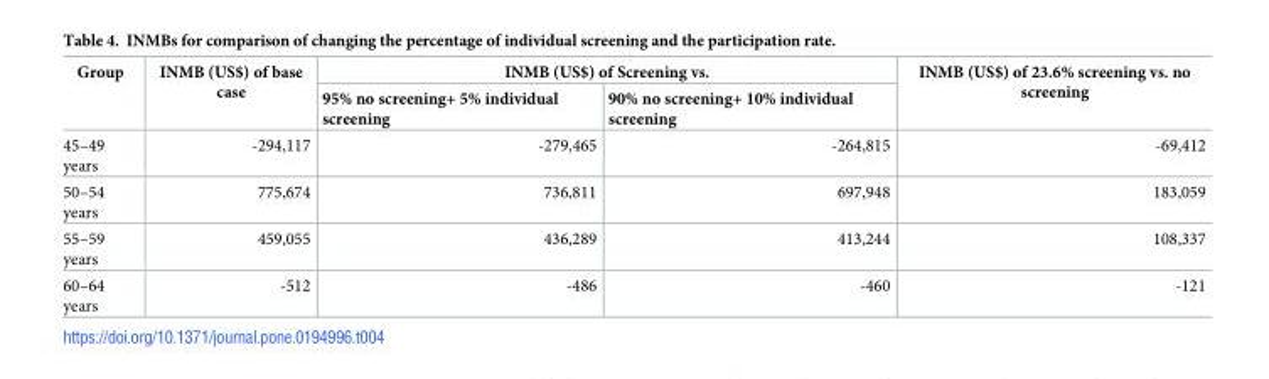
<table><thead><tr><td rowspan="2">Group</td><td rowspan="2">INMB (US$) of base case</td><td colspan="2">INMB (US$) of Screening vs.</td><td rowspan="2">INMB (US$) of 23.6% screening vs. no screening</td></tr><tr><td>95% no screening+ 5% individual screening</td><td>90% no screening+ 10% individual screening</td></tr></thead><tbody><tr><td>45–49 years</td><td>-294,117</td><td>-279,465</td><td>-264,815</td><td>-69,412</td></tr><tr><td>50–54 years</td><td>775,674</td><td>736,811</td><td>697,948</td><td>183,059</td></tr><tr><td>55–59 years</td><td>459,055</td><td>436,289</td><td>413,244</td><td>108,337</td></tr><tr><td>60–64 years</td><td>-512</td><td>-486</td><td>-460</td><td>-121</td></tr></tbody></table>